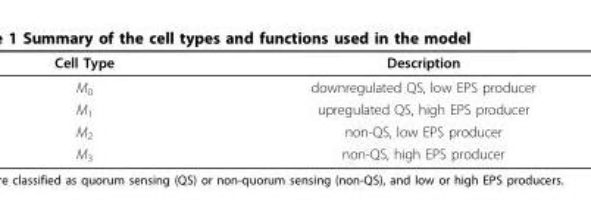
<table><thead><tr><td>Cell Type</td><td>Description</td></tr></thead><tbody><tr><td>M<sub>0</sub></td><td>downregulated QS, low EPS producer</td></tr><tr><td>M<sub>1</sub></td><td>upregulated QS, high EPS producer</td></tr><tr><td>M<sub>2</sub></td><td>non-QS, low EPS producer</td></tr><tr><td>M<sub>3</sub></td><td>non-QS, high EPS producer</td></tr></tbody></table>